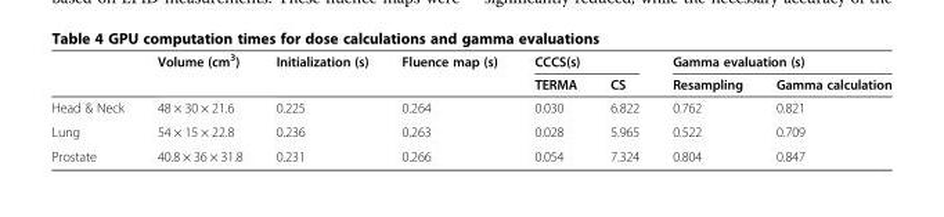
<table><thead><tr><td rowspan="2"></td><td rowspan="2">Volume (cm<sup>3</sup>)</td><td rowspan="2">Initialization (s)</td><td rowspan="2">Fluence map (s)</td><td colspan="2">CCCS(s)</td><td colspan="2">Gamma evaluation (s)</td></tr><tr><td>TERMA</td><td>CS</td><td>Resampling</td><td>Gamma calculation</td></tr></thead><tbody><tr><td>Head &amp; Neck</td><td>48 × 30 × 21.6</td><td>0.225</td><td>0.264</td><td>0.030</td><td>6.822</td><td>0.762</td><td>0.821</td></tr><tr><td>Lung</td><td>54 × 15 × 22.8</td><td>0.236</td><td>0.263</td><td>0.028</td><td>5.965</td><td>0.522</td><td>0.709</td></tr><tr><td>Prostate</td><td>40.8 × 36 × 31.8</td><td>0.231</td><td>0.266</td><td>0.054</td><td>7.324</td><td>0.804</td><td>0.847</td></tr></tbody></table>